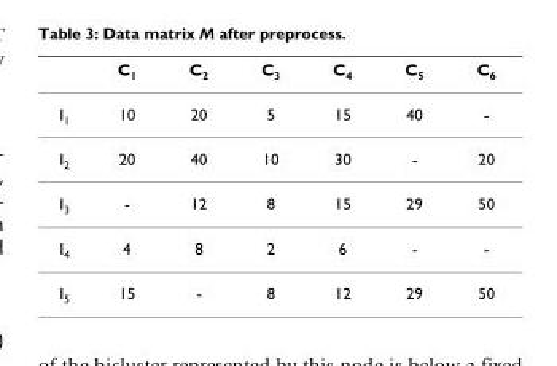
<table><thead><tr><td></td><td>C<sub>1</sub></td><td>C<sub>2</sub></td><td>C<sub>3</sub></td><td>C<sub>4</sub></td><td>C<sub>5</sub></td><td>C<sub>6</sub></td></tr></thead><tbody><tr><td>I<sub>1</sub></td><td>10</td><td>20</td><td>5</td><td>15</td><td>40</td><td>-</td></tr><tr><td>I<sub>2</sub></td><td>20</td><td>40</td><td>10</td><td>30</td><td>-</td><td>20</td></tr><tr><td>I<sub>3</sub></td><td>-</td><td>12</td><td>8</td><td>15</td><td>29</td><td>50</td></tr><tr><td>I<sub>4</sub></td><td>4</td><td>8</td><td>2</td><td>6</td><td>-</td><td>-</td></tr><tr><td>I<sub>5</sub></td><td>15</td><td>-</td><td>8</td><td>12</td><td>29</td><td>50</td></tr></tbody></table>